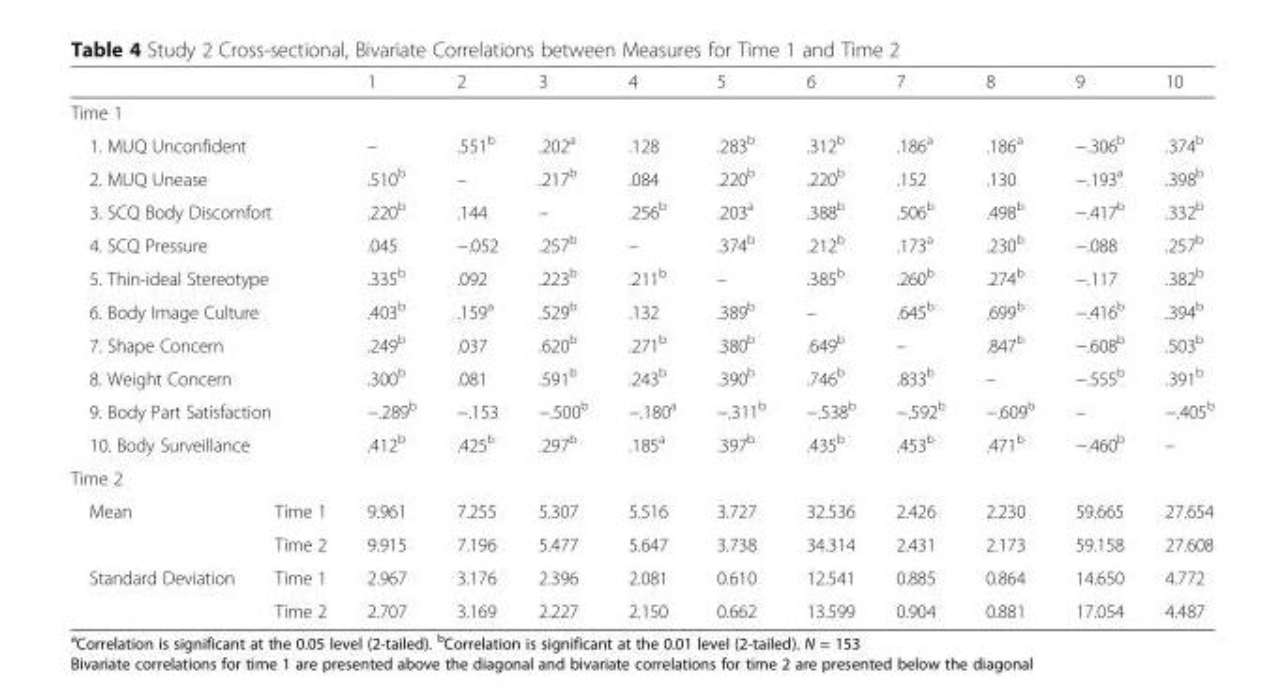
<table><thead><tr><td></td><td></td><td>1</td><td>2</td><td>3</td><td>4</td><td>5</td><td>6</td><td>7</td><td>8</td><td>9</td><td>10</td></tr></thead><tbody><tr><td colspan="12">Time 1</td></tr><tr><td colspan="2">1. MUQ Unconfident</td><td>–</td><td>.551<sup>b</sup></td><td>.202<sup>a</sup></td><td>.128</td><td>.283<sup>b</sup></td><td>.312<sup>b</sup></td><td>.186<sup>a</sup></td><td>.186<sup>a</sup></td><td>−.306<sup>b</sup></td><td>.374<sup>b</sup></td></tr><tr><td colspan="2">2. MUQ Unease</td><td>.510<sup>b</sup></td><td>–</td><td>.217<sup>b</sup></td><td>.084</td><td>.220<sup>b</sup></td><td>.220<sup>b</sup></td><td>.152</td><td>.130</td><td>−.193<sup>a</sup></td><td>.398<sup>b</sup></td></tr><tr><td colspan="2">3. SCQ Body Discomfort</td><td>.220<sup>b</sup></td><td>.144</td><td>–</td><td>.256<sup>b</sup></td><td>.203<sup>a</sup></td><td>.388<sup>b</sup></td><td>.506<sup>b</sup></td><td>.498<sup>b</sup></td><td>−.417<sup>b</sup></td><td>.332<sup>b</sup></td></tr><tr><td colspan="2">4. SCQ Pressure</td><td>.045</td><td>−.052</td><td>.257<sup>b</sup></td><td>–</td><td>.374<sup>b</sup></td><td>.212<sup>b</sup></td><td>.173<sup>a</sup></td><td>.230<sup>b</sup></td><td>−.088</td><td>.257<sup>b</sup></td></tr><tr><td colspan="2">5. Thin-ideal Stereotype</td><td>.335<sup>b</sup></td><td>.092</td><td>.223<sup>b</sup></td><td>.211<sup>b</sup></td><td>–</td><td>.385<sup>b</sup></td><td>.260<sup>b</sup></td><td>.274<sup>b</sup></td><td>−.117</td><td>.382<sup>b</sup></td></tr><tr><td colspan="2">6. Body Image Culture</td><td>.403<sup>b</sup></td><td>.159<sup>a</sup></td><td>.529<sup>b</sup></td><td>.132</td><td>.389<sup>b</sup></td><td>–</td><td>.645<sup>b</sup></td><td>.699<sup>b</sup></td><td>−.416<sup>b</sup></td><td>.394<sup>b</sup></td></tr><tr><td colspan="2">7. Shape Concern</td><td>.249<sup>b</sup></td><td>.037</td><td>.620<sup>b</sup></td><td>.271<sup>b</sup></td><td>.380<sup>b</sup></td><td>.649<sup>b</sup></td><td>–</td><td>.847<sup>b</sup></td><td>−.608<sup>b</sup></td><td>.503<sup>b</sup></td></tr><tr><td colspan="2">8. Weight Concern</td><td>.300<sup>b</sup></td><td>.081</td><td>.591<sup>b</sup></td><td>.243<sup>b</sup></td><td>.390<sup>b</sup></td><td>.746<sup>b</sup></td><td>.833<sup>b</sup></td><td>–</td><td>−.555<sup>b</sup></td><td>.391<sup>b</sup></td></tr><tr><td colspan="2">9. Body Part Satisfaction</td><td>−.289<sup>b</sup></td><td>−.153</td><td>−.500<sup>b</sup></td><td>−.180<sup>a</sup></td><td>−.311<sup>b</sup></td><td>−.538<sup>b</sup></td><td>−.592<sup>b</sup></td><td>−.609<sup>b</sup></td><td>–</td><td>−.405<sup>b</sup></td></tr><tr><td colspan="2">10. Body Surveillance</td><td>.412<sup>b</sup></td><td>.425<sup>b</sup></td><td>.297<sup>b</sup></td><td>.185<sup>a</sup></td><td>.397<sup>b</sup></td><td>.435<sup>b</sup></td><td>.453<sup>b</sup></td><td>.471<sup>b</sup></td><td>−.460<sup>b</sup></td><td>–</td></tr><tr><td colspan="12">Time 2</td></tr><tr><td rowspan="2">Mean</td><td>Time 1</td><td>9.961</td><td>7.255</td><td>5.307</td><td>5.516</td><td>3.727</td><td>32.536</td><td>2.426</td><td>2.230</td><td>59.665</td><td>27.654</td></tr><tr><td>Time 2</td><td>9.915</td><td>7.196</td><td>5.477</td><td>5.647</td><td>3.738</td><td>34.314</td><td>2.431</td><td>2.173</td><td>59.158</td><td>27.608</td></tr><tr><td rowspan="2">Standard Deviation</td><td>Time 1</td><td>2.967</td><td>3.176</td><td>2.396</td><td>2.081</td><td>0.610</td><td>12.541</td><td>0.885</td><td>0.864</td><td>14.650</td><td>4.772</td></tr><tr><td>Time 2</td><td>2.707</td><td>3.169</td><td>2.227</td><td>2.150</td><td>0.662</td><td>13.599</td><td>0.904</td><td>0.881</td><td>17.054</td><td>4.487</td></tr></tbody></table>